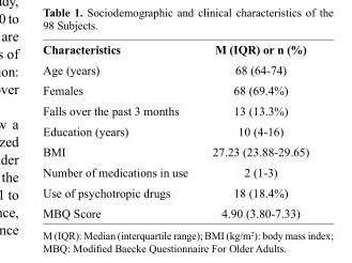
<table><thead><tr><td>Characteristics</td><td>M (IQR) or n (%)</td></tr></thead><tbody><tr><td>Age (years)</td><td>68 (64-74)</td></tr><tr><td>Females</td><td>68 (69.4%)</td></tr><tr><td>Falls over the past 3 months</td><td>13 (13.3%)</td></tr><tr><td>Education (years)</td><td>10 (4-16)</td></tr><tr><td>BMI</td><td>27.23 (23.88-29.65)</td></tr><tr><td>Number of medications in use</td><td>2 (1-3)</td></tr><tr><td>Use of psychotropic drugs</td><td>18 (18.4%)</td></tr><tr><td>MBQ Score</td><td>4.90 (3.80-7.33)</td></tr></tbody></table>